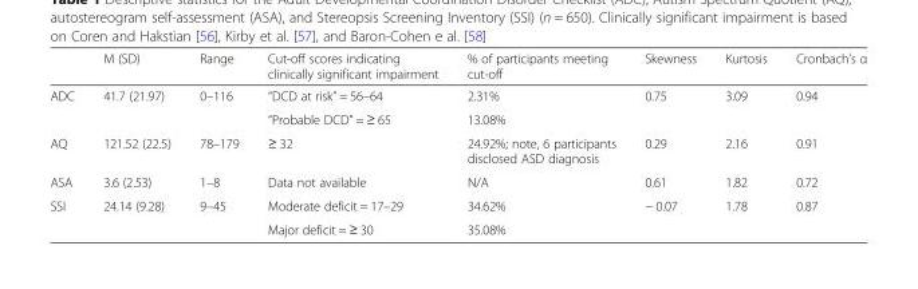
<table><thead><tr><td></td><td>M (SD)</td><td>Range</td><td>Cut-off scores indicating clinically significant impairment</td><td>% of participants meeting cut-off</td><td>Skewness</td><td>Kurtosis</td><td>Cronbach’s α</td></tr></thead><tbody><tr><td rowspan="2">ADC</td><td rowspan="2">41.7 (21.97)</td><td rowspan="2">0–116</td><td>“DCD at risk” = 56–64</td><td>2.31%</td><td rowspan="2">0.75</td><td rowspan="2">3.09</td><td rowspan="2">0.94</td></tr><tr><td>“Probable DCD” = ≥ 65</td><td>13.08%</td></tr><tr><td>AQ</td><td>121.52 (22.5)</td><td>78–179</td><td>≥ 32</td><td>24.92%; note, 6 participants disclosed ASD diagnosis</td><td>0.29</td><td>2.16</td><td>0.91</td></tr><tr><td>ASA</td><td>3.6 (2.53)</td><td>1–8</td><td>Data not available</td><td>N/A</td><td>0.61</td><td>1.82</td><td>0.72</td></tr><tr><td rowspan="2">SSI</td><td rowspan="2">24.14 (9.28)</td><td rowspan="2">9–45</td><td>Moderate deficit = 17–29</td><td>34.62%</td><td rowspan="2">− 0.07</td><td rowspan="2">1.78</td><td rowspan="2">0.87</td></tr><tr><td>Major deficit = ≥ 30</td><td>35.08%</td></tr></tbody></table>